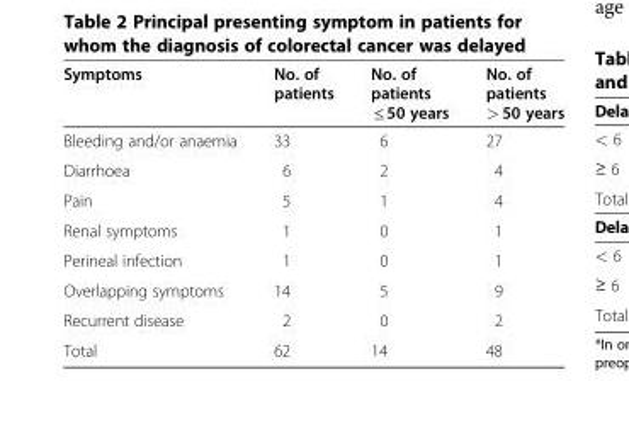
<table><thead><tr><td>Symptoms</td><td>No. of patients</td><td>No. of patients ≤ 50 years</td><td>No. of patients &gt; 50 years</td></tr></thead><tbody><tr><td>Bleeding and/or anaemia</td><td>33</td><td>6</td><td>27</td></tr><tr><td>Diarrhoea</td><td>6</td><td>2</td><td>4</td></tr><tr><td>Pain</td><td>5</td><td>1</td><td>4</td></tr><tr><td>Renal symptoms</td><td>1</td><td>0</td><td>1</td></tr><tr><td>Perineal infection</td><td>1</td><td>0</td><td>1</td></tr><tr><td>Overlapping symptoms</td><td>14</td><td>5</td><td>9</td></tr><tr><td>Recurrent disease</td><td>2</td><td>0</td><td>2</td></tr><tr><td>Total</td><td>62</td><td>14</td><td>48</td></tr></tbody></table>